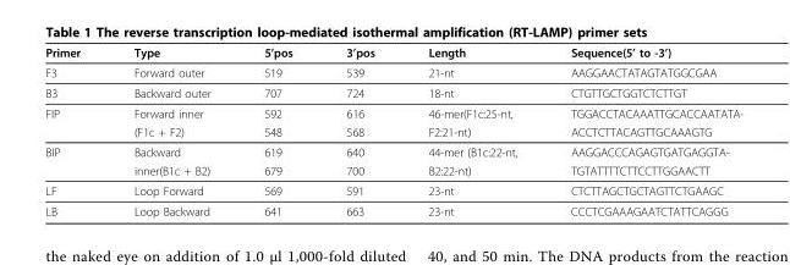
<table><thead><tr><td>Primer</td><td>Type</td><td>5’pos</td><td>3’pos</td><td>Length</td><td>Sequence(5’ to -3’)</td></tr></thead><tbody><tr><td>F3</td><td>Forward outer</td><td>519</td><td>539</td><td>21-nt</td><td>AAGGAACTATAGTATGGCGAA</td></tr><tr><td>B3</td><td>Backward outer</td><td>707</td><td>724</td><td>18-nt</td><td>CTGTTGCTGGTCTCTTGT</td></tr><tr><td rowspan="2">FIP</td><td>Forward inner</td><td>592</td><td>616</td><td>46-mer(F1c:25-nt,</td><td>TGGACCTACAAATTGCACCAATATA-</td></tr><tr><td>(F1c + F2)</td><td>548</td><td>568</td><td>F2:21-nt)</td><td>ACCTCTTACAGTTGCAAAGTG</td></tr><tr><td rowspan="2">BIP</td><td>Backward</td><td>619</td><td>640</td><td>44-mer (B1c:22-nt,</td><td>AAGGACCCAGAGTGATGAGGTA-</td></tr><tr><td>inner(B1c + B2)</td><td>679</td><td>700</td><td>B2:22-nt)</td><td>TGTATTTTCTTCCTTGGAACTT</td></tr><tr><td>LF</td><td>Loop Forward</td><td>569</td><td>591</td><td>23-nt</td><td>CTCTTAGCTGCTAGTTCTGAAGC</td></tr><tr><td>LB</td><td>Loop Backward</td><td>641</td><td>663</td><td>23-nt</td><td>CCCTCGAAAGAATCTATTCAGGG</td></tr></tbody></table>